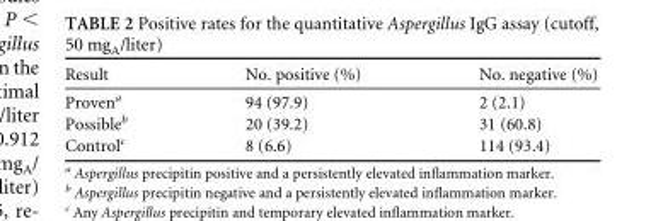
<table><thead><tr><td>Result</td><td>No. positive (%)</td><td>No. negative (%)</td></tr></thead><tbody><tr><td>Proven<sup>a</sup></td><td>94 (97.9)</td><td>2 (2.1)</td></tr><tr><td>Possible<sup>b</sup></td><td>20 (39.2)</td><td>31 (60.8)</td></tr><tr><td>Control<sup>c</sup></td><td>8 (6.6)</td><td>114 (93.4)</td></tr></tbody></table>